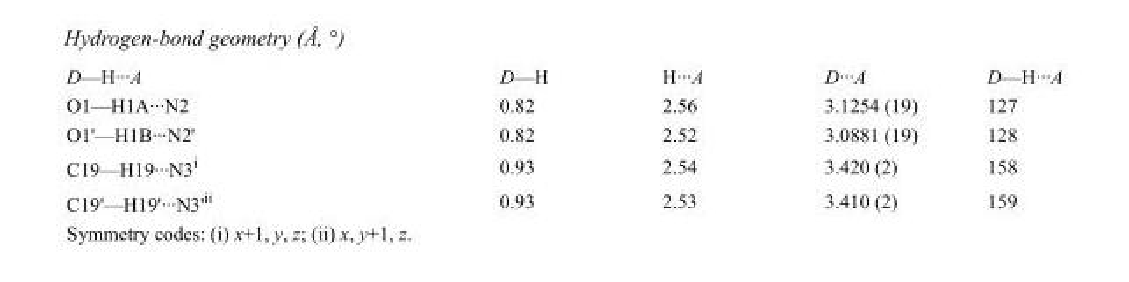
<table><tbody><tr><td>D—H···A</td><td>D—H</td><td>H···A</td><td>D···A</td><td>D—H···A</td></tr><tr><td>O1—H1A···N2</td><td>0.82</td><td>2.56</td><td>3.1254 (19)</td><td>127</td></tr><tr><td>O1&#x27;—H1B···N2&#x27;</td><td>0.82</td><td>2.52</td><td>3.0881 (19)</td><td>128</td></tr><tr><td>C19—H19···N3<sup>i</sup></td><td>0.93</td><td>2.54</td><td>3.420 (2)</td><td>158</td></tr><tr><td>C19&#x27;—H19&#x27;···N3&#x27;<sup>ii</sup></td><td>0.93</td><td>2.53</td><td>3.410 (2)</td><td>159</td></tr></tbody></table>